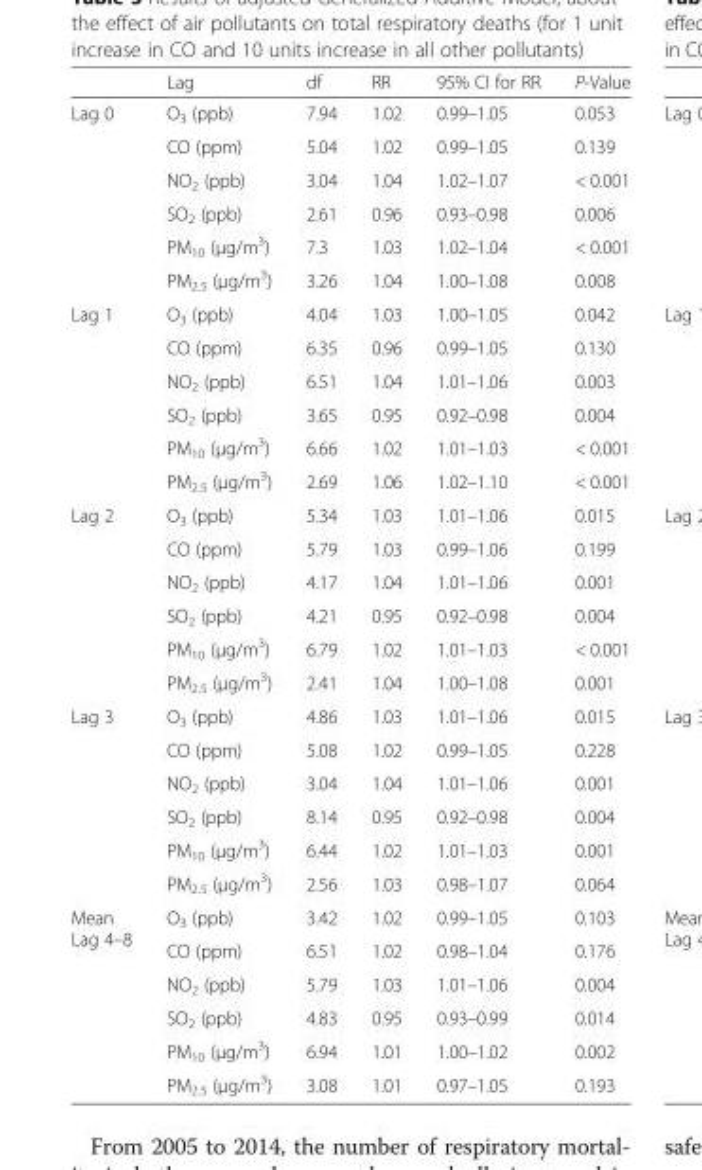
<table><thead><tr><td></td><td>Lag</td><td>df</td><td>RR</td><td>95% CI for RR</td><td>P-Value</td></tr></thead><tbody><tr><td rowspan="6">Lag 0</td><td>O<sub>3</sub> (ppb)</td><td>7.94</td><td>1.02</td><td>0.99–1.05</td><td>0.053</td></tr><tr><td>CO (ppm)</td><td>5.04</td><td>1.02</td><td>0.99–1.05</td><td>0.139</td></tr><tr><td>NO<sub>2</sub> (ppb)</td><td>3.04</td><td>1.04</td><td>1.02–1.07</td><td>&lt; 0.001</td></tr><tr><td>SO<sub>2</sub> (ppb)</td><td>2.61</td><td>0.96</td><td>0.93–0.98</td><td>0.006</td></tr><tr><td>PM<sub>10</sub> (μg/m<sup>3</sup>)</td><td>7.3</td><td>1.03</td><td>1.02–1.04</td><td>&lt; 0.001</td></tr><tr><td>PM<sub>2.5</sub> (μg/m<sup>3</sup>)</td><td>3.26</td><td>1.04</td><td>1.00–1.08</td><td>0.008</td></tr><tr><td rowspan="6">Lag 1</td><td>O<sub>3</sub> (ppb)</td><td>4.04</td><td>1.03</td><td>1.00–1.05</td><td>0.042</td></tr><tr><td>CO (ppm)</td><td>6.35</td><td>0.96</td><td>0.99–1.05</td><td>0.130</td></tr><tr><td>NO<sub>2</sub> (ppb)</td><td>6.51</td><td>1.04</td><td>1.01–1.06</td><td>0.003</td></tr><tr><td>SO<sub>2</sub> (ppb)</td><td>3.65</td><td>0.95</td><td>0.92–0.98</td><td>0.004</td></tr><tr><td>PM<sub>10</sub> (μg/m<sup>3</sup>)</td><td>6.66</td><td>1.02</td><td>1.01–1.03</td><td>&lt; 0.001</td></tr><tr><td>PM<sub>2.5</sub> (μg/m<sup>3</sup>)</td><td>2.69</td><td>1.06</td><td>1.02–1.10</td><td>&lt; 0.001</td></tr><tr><td rowspan="6">Lag 2</td><td>O<sub>3</sub> (ppb)</td><td>5.34</td><td>1.03</td><td>1.01–1.06</td><td>0.015</td></tr><tr><td>CO (ppm)</td><td>5.79</td><td>1.03</td><td>0.99–1.06</td><td>0.199</td></tr><tr><td>NO<sub>2</sub> (ppb)</td><td>4.17</td><td>1.04</td><td>1.01–1.06</td><td>0.001</td></tr><tr><td>SO<sub>2</sub> (ppb)</td><td>4.21</td><td>0.95</td><td>0.92–0.98</td><td>0.004</td></tr><tr><td>PM<sub>10</sub> (μg/m<sup>3</sup>)</td><td>6.79</td><td>1.02</td><td>1.01–1.03</td><td>&lt; 0.001</td></tr><tr><td>PM<sub>2.5</sub> (μg/m<sup>3</sup>)</td><td>2.41</td><td>1.04</td><td>1.00–1.08</td><td>0.001</td></tr><tr><td rowspan="6">Lag 3</td><td>O<sub>3</sub> (ppb)</td><td>4.86</td><td>1.03</td><td>1.01–1.06</td><td>0.015</td></tr><tr><td>CO (ppm)</td><td>5.08</td><td>1.02</td><td>0.99–1.05</td><td>0.228</td></tr><tr><td>NO<sub>2</sub> (ppb)</td><td>3.04</td><td>1.04</td><td>1.01–1.06</td><td>0.001</td></tr><tr><td>SO<sub>2</sub> (ppb)</td><td>8.14</td><td>0.95</td><td>0.92–0.98</td><td>0.004</td></tr><tr><td>PM<sub>10</sub> (μg/m<sup>3</sup>)</td><td>6.44</td><td>1.02</td><td>1.01–1.03</td><td>0.001</td></tr><tr><td>PM<sub>2.5</sub> (μg/m<sup>3</sup>)</td><td>2.56</td><td>1.03</td><td>0.98–1.07</td><td>0.064</td></tr><tr><td rowspan="6">Mean Lag 4–8</td><td>O<sub>3</sub> (ppb)</td><td>3.42</td><td>1.02</td><td>0.99–1.05</td><td>0.103</td></tr><tr><td>CO (ppm)</td><td>6.51</td><td>1.02</td><td>0.98–1.04</td><td>0.176</td></tr><tr><td>NO<sub>2</sub> (ppb)</td><td>5.79</td><td>1.03</td><td>1.01–1.06</td><td>0.004</td></tr><tr><td>SO<sub>2</sub> (ppb)</td><td>4.83</td><td>0.95</td><td>0.93–0.99</td><td>0.014</td></tr><tr><td>PM<sub>10</sub> (μg/m<sup>3</sup>)</td><td>6.94</td><td>1.01</td><td>1.00–1.02</td><td>0.002</td></tr><tr><td>PM<sub>2.5</sub> (μg/m<sup>3</sup>)</td><td>3.08</td><td>1.01</td><td>0.97–1.05</td><td>0.193</td></tr></tbody></table>